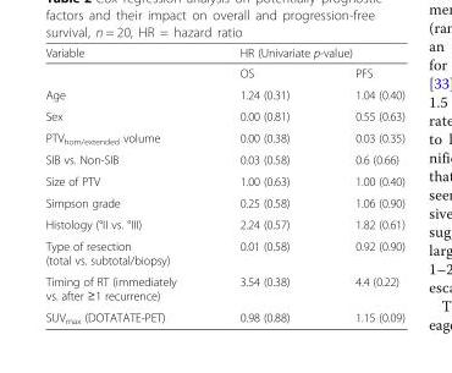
<table><thead><tr><td rowspan="2">Variable</td><td colspan="2">HR (Univariate p-value)</td></tr><tr><td>OS</td><td>PFS</td></tr></thead><tbody><tr><td>Age</td><td>1.24 (0.31)</td><td>1.04 (0.40)</td></tr><tr><td>Sex</td><td>0.00 (0.81)</td><td>0.55 (0.63)</td></tr><tr><td>PTV<sub>hom/extended</sub> volume</td><td>0.00 (0.38)</td><td>0.03 (0.35)</td></tr><tr><td>SIB vs. Non-SIB</td><td>0.03 (0.58)</td><td>0.6 (0.66)</td></tr><tr><td>Size of PTV</td><td>1.00 (0.63)</td><td>1.00 (0.40)</td></tr><tr><td>Simpson grade</td><td>0.25 (0.58)</td><td>1.06 (0.90)</td></tr><tr><td>Histology (°II vs. °III)</td><td>2.24 (0.57)</td><td>1.82 (0.61)</td></tr><tr><td>Type of resection (total vs. subtotal/biopsy)</td><td>0.01 (0.58)</td><td>0.92 (0.90)</td></tr><tr><td>Timing of RT (immediately vs. after ≥1 recurrence)</td><td>3.54 (0.38)</td><td>4.4 (0.22)</td></tr><tr><td>SUV<sub>max</sub> (DOTATATE-PET)</td><td>0.98 (0.88)</td><td>1.15 (0.09)</td></tr></tbody></table>